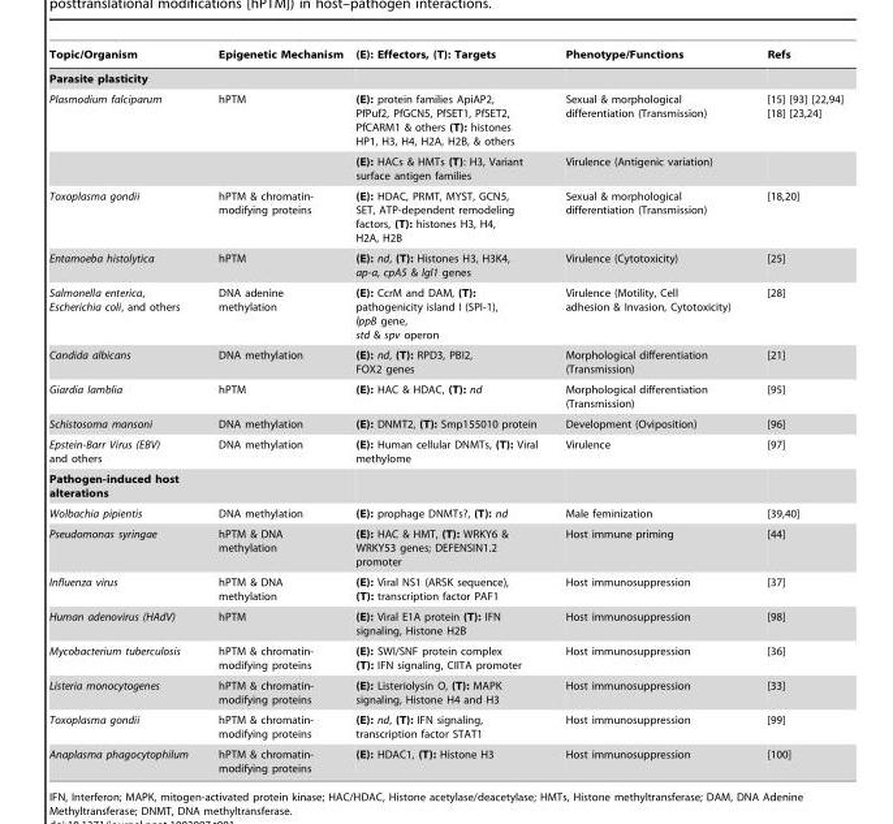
<table><thead><tr><td>Topic/Organism</td><td>Epigenetic Mechanism</td><td>(E): Effectors, (T): Targets</td><td>Phenotype/Functions</td><td>Refs</td></tr></thead><tbody><tr><td colspan="5">Parasite plasticity</td></tr><tr><td rowspan="2">Plasmodium falciparum</td><td>hPTM</td><td>(E): protein families ApiAP2, PfPuf2, PfGCN5, PfSET1, PfSET2, PfCARM1 &amp; others (T): histones HP1, H3, H4, H2A, H2B, &amp; others</td><td>Sexual &amp; morphological differentiation (Transmission)</td><td>[15] [93] [22,94] [18] [23,24]</td></tr><tr><td></td><td>(E): HACs &amp; HMTs (T): H3, Variant surface antigen families</td><td>Virulence (Antigenic variation)</td><td></td></tr><tr><td>Toxoplasma gondii</td><td>hPTM &amp; chromatin- modifying proteins</td><td>(E): HDAC, PRMT, MYST, GCN5, SET, ATP-dependent remodeling factors, (T): histones H3, H4, H2A, H2B</td><td>Sexual &amp; morphological differentiation (Transmission)</td><td>[18,20]</td></tr><tr><td>Entamoeba histolytica</td><td>hPTM</td><td>(E): nd, (T): Histones H3, H3K4, ap-a, cpA5 &amp; lgl1 genes</td><td>Virulence (Cytotoxicity)</td><td>[25]</td></tr><tr><td>Salmonella enterica, Escherichia coli, and others</td><td>DNA adenine methylation</td><td>(E): CcrM and DAM, (T): pathogenicity island I (SPI-1), lppB gene, std &amp; spv operon</td><td>Virulence (Motility, Cell adhesion &amp; Invasion, Cytotoxicity)</td><td>[28]</td></tr><tr><td>Candida albicans</td><td>DNA methylation</td><td>(E): nd, (T): RPD3, PBI2, FOX2 genes</td><td>Morphological differentiation (Transmission)</td><td>[21]</td></tr><tr><td>Giardia lamblia</td><td>hPTM</td><td>(E): HAC &amp; HDAC, (T): nd</td><td>Morphological differentiation (Transmission)</td><td>[95]</td></tr><tr><td>Schistosoma mansoni</td><td>DNA methylation</td><td>(E): DNMT2, (T): Smp155010 protein</td><td>Development (Oviposition)</td><td>[96]</td></tr><tr><td>Epstein-Barr Virus (EBV) and others</td><td>DNA methylation</td><td>(E): Human cellular DNMTs, (T): Viral methylome</td><td>Virulence</td><td>[97]</td></tr><tr><td colspan="5">Pathogen-induced host alterations</td></tr><tr><td>Wolbachia pipientis</td><td>DNA methylation</td><td>(E): prophage DNMTs?, (T): nd</td><td>Male feminization</td><td>[39,40]</td></tr><tr><td>Pseudomonas syringae</td><td>hPTM &amp; DNA methylation</td><td>(E): HAC &amp; HMT, (T): WRKY6 &amp; WRKY53 genes; DEFENSIN1.2 promoter</td><td>Host immune priming</td><td>[44]</td></tr><tr><td>Influenza virus</td><td>hPTM &amp; DNA methylation</td><td>(E): Viral NS1 (ARSK sequence), (T): transcription factor PAF1</td><td>Host immunosuppression</td><td>[37]</td></tr><tr><td>Human adenovirus (HAdV)</td><td>hPTM</td><td>(E): Viral E1A protein (T): IFN signaling, Histone H2B</td><td>Host immunosuppression</td><td>[98]</td></tr><tr><td>Mycobacterium tuberculosis</td><td>hPTM &amp; chromatin- modifying proteins</td><td>(E): SWI/SNF protein complex (T): IFN signaling, CIITA promoter</td><td>Host immunosuppression</td><td>[36]</td></tr><tr><td>Listeria monocytogenes</td><td>hPTM &amp; chromatin- modifying proteins</td><td>(E): Listeriolysin O, (T): MAPK signaling, Histone H4 and H3</td><td>Host immunosuppression</td><td>[33]</td></tr><tr><td>Toxoplasma gondii</td><td>hPTM &amp; chromatin- modifying proteins</td><td>(E): nd, (T): IFN signaling, transcription factor STAT1</td><td>Host immunosuppression</td><td>[99]</td></tr><tr><td>Anaplasma phagocytophilum</td><td>hPTM &amp; chromatin- modifying proteins</td><td>(E): HDAC1, (T): Histone H3</td><td>Host immunosuppression</td><td>[100]</td></tr></tbody></table>